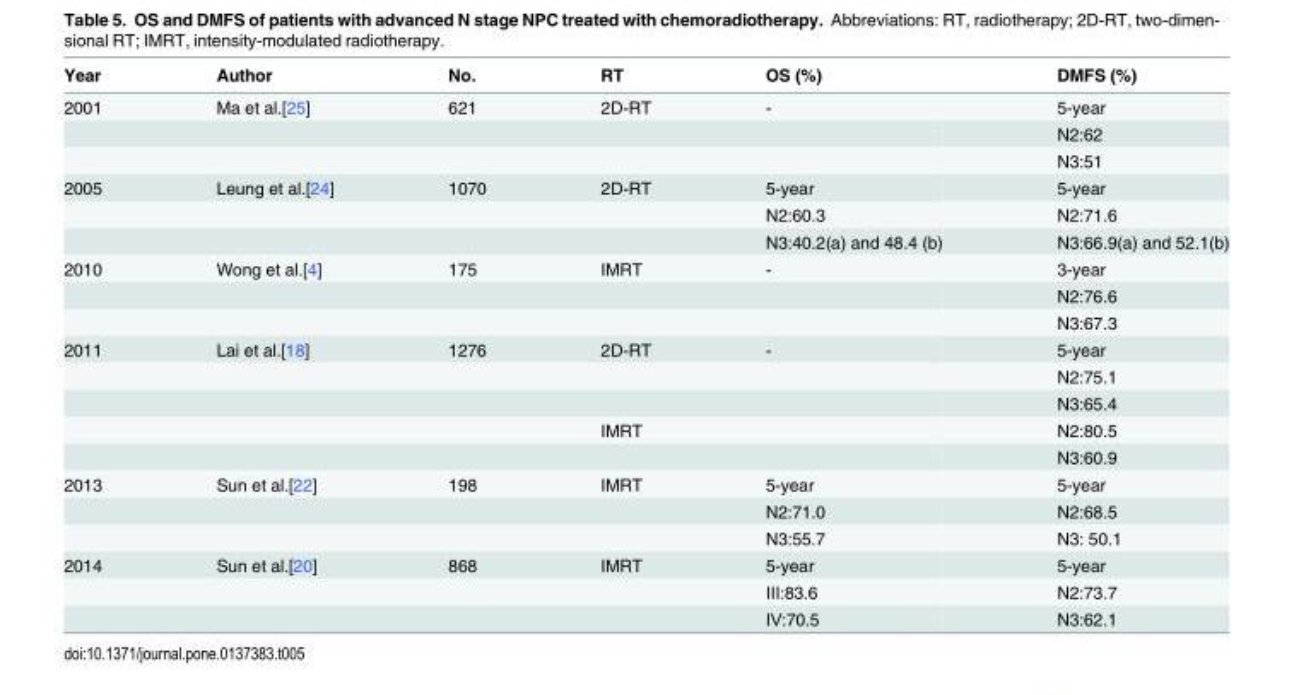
<table><thead><tr><td>Year</td><td>Author</td><td>No.</td><td>RT</td><td>OS (%)</td><td>DMFS (%)</td></tr></thead><tbody><tr><td rowspan="3">2001</td><td>Ma et al.[25]</td><td>621</td><td>2D-RT</td><td>-</td><td>5-year</td></tr><tr><td></td><td></td><td></td><td></td><td>N2:62</td></tr><tr><td></td><td></td><td></td><td></td><td>N3:51</td></tr><tr><td rowspan="3">2005</td><td>Leung et al.[24]</td><td>1070</td><td>2D-RT</td><td>5-year</td><td>5-year</td></tr><tr><td></td><td></td><td></td><td>N2:60.3</td><td>N2:71.6</td></tr><tr><td></td><td></td><td></td><td>N3:40.2(a) and 48.4 (b)</td><td>N3:66.9(a) and 52.1(b)</td></tr><tr><td rowspan="3">2010</td><td>Wong et al.[4]</td><td>175</td><td>IMRT</td><td>-</td><td>3-year</td></tr><tr><td></td><td></td><td></td><td></td><td>N2:76.6</td></tr><tr><td></td><td></td><td></td><td></td><td>N3:67.3</td></tr><tr><td rowspan="5">2011</td><td>Lai et al.[18]</td><td>1276</td><td>2D-RT</td><td>-</td><td>5-year</td></tr><tr><td></td><td></td><td></td><td></td><td>N2:75.1</td></tr><tr><td></td><td></td><td></td><td></td><td>N3:65.4</td></tr><tr><td></td><td></td><td>IMRT</td><td></td><td>N2:80.5</td></tr><tr><td></td><td></td><td></td><td></td><td>N3:60.9</td></tr><tr><td rowspan="3">2013</td><td>Sun et al.[22]</td><td>198</td><td>IMRT</td><td>5-year</td><td>5-year</td></tr><tr><td></td><td></td><td></td><td>N2:71.0</td><td>N2:68.5</td></tr><tr><td></td><td></td><td></td><td>N3:55.7</td><td>N3: 50.1</td></tr><tr><td rowspan="3">2014</td><td>Sun et al.[20]</td><td>868</td><td>IMRT</td><td>5-year</td><td>5-year</td></tr><tr><td></td><td></td><td></td><td>Ⅲ:83.6</td><td>N2:73.7</td></tr><tr><td></td><td></td><td></td><td>Ⅳ:70.5</td><td>N3:62.1</td></tr></tbody></table>